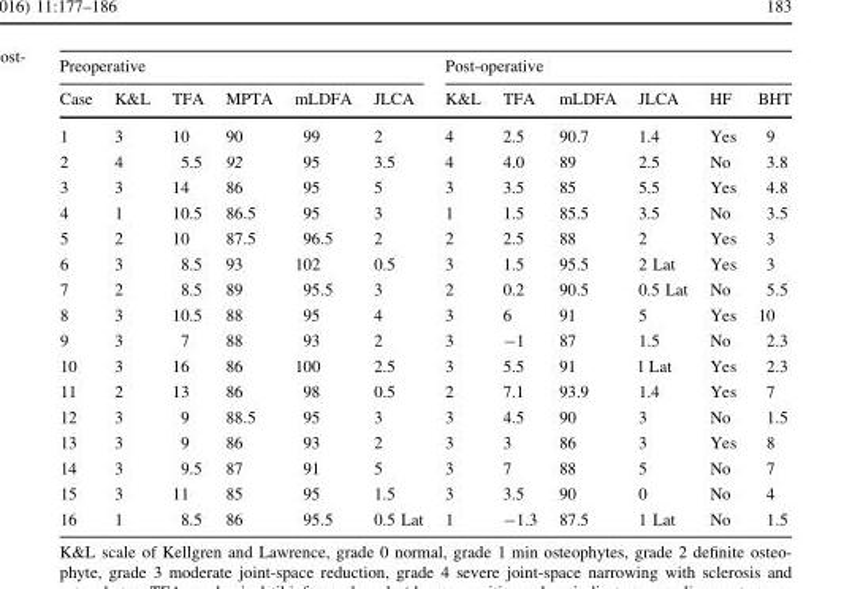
<table><thead><tr><td colspan="6">Preoperative</td><td colspan="6">Post-operative</td></tr><tr><td>Case</td><td>K&amp;L</td><td>TFA</td><td>MPTA</td><td>mLDFA</td><td>JLCA</td><td>K&amp;L</td><td>TFA</td><td>mLDFA</td><td>JLCA</td><td>HF</td><td>BHT</td></tr></thead><tbody><tr><td>1</td><td>3</td><td>10</td><td>90</td><td>99</td><td>2</td><td>4</td><td>2.5</td><td>90.7</td><td>1.4</td><td>Yes</td><td>9</td></tr><tr><td>2</td><td>4</td><td>5.5</td><td>92</td><td>95</td><td>3.5</td><td>4</td><td>4.0</td><td>89</td><td>2.5</td><td>No</td><td>3.8</td></tr><tr><td>3</td><td>3</td><td>14</td><td>86</td><td>95</td><td>5</td><td>3</td><td>3.5</td><td>85</td><td>5.5</td><td>Yes</td><td>4.8</td></tr><tr><td>4</td><td>1</td><td>10.5</td><td>86.5</td><td>95</td><td>3</td><td>1</td><td>1.5</td><td>85.5</td><td>3.5</td><td>No</td><td>3.5</td></tr><tr><td>5</td><td>2</td><td>10</td><td>87.5</td><td>96.5</td><td>2</td><td>2</td><td>2.5</td><td>88</td><td>2</td><td>Yes</td><td>3</td></tr><tr><td>6</td><td>3</td><td>8.5</td><td>93</td><td>102</td><td>0.5</td><td>3</td><td>1.5</td><td>95.5</td><td>2 Lat</td><td>Yes</td><td>3</td></tr><tr><td>7</td><td>2</td><td>8.5</td><td>89</td><td>95.5</td><td>3</td><td>2</td><td>0.2</td><td>90.5</td><td>0.5 Lat</td><td>No</td><td>5.5</td></tr><tr><td>8</td><td>3</td><td>10.5</td><td>88</td><td>95</td><td>4</td><td>3</td><td>6</td><td>91</td><td>5</td><td>Yes</td><td>10</td></tr><tr><td>9</td><td>3</td><td>7</td><td>88</td><td>93</td><td>2</td><td>3</td><td>-1</td><td>87</td><td>1.5</td><td>No</td><td>2.3</td></tr><tr><td>10</td><td>3</td><td>16</td><td>86</td><td>100</td><td>2.5</td><td>3</td><td>5.5</td><td>91</td><td>l Lat</td><td>Yes</td><td>2.3</td></tr><tr><td>11</td><td>2</td><td>13</td><td>86</td><td>98</td><td>0.5</td><td>2</td><td>7.1</td><td>93.9</td><td>1.4</td><td>Yes</td><td>7</td></tr><tr><td>12</td><td>3</td><td>9</td><td>88.5</td><td>95</td><td>3</td><td>3</td><td>4.5</td><td>90</td><td>3</td><td>No</td><td>1.5</td></tr><tr><td>13</td><td>3</td><td>9</td><td>86</td><td>93</td><td>2</td><td>3</td><td>3</td><td>86</td><td>3</td><td>Yes</td><td>8</td></tr><tr><td>14</td><td>3</td><td>9.5</td><td>87</td><td>91</td><td>5</td><td>3</td><td>7</td><td>88</td><td>5</td><td>No</td><td>7</td></tr><tr><td>15</td><td>3</td><td>11</td><td>85</td><td>95</td><td>1.5</td><td>3</td><td>3.5</td><td>90</td><td>0</td><td>No</td><td>4</td></tr><tr><td>16</td><td>1</td><td>8.5</td><td>86</td><td>95.5</td><td>0.5 Lat</td><td>1</td><td>-1.3</td><td>87.5</td><td>1 Lat</td><td>No</td><td>1.5</td></tr></tbody></table>